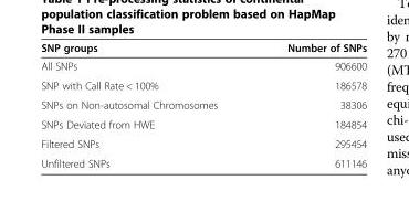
<table><thead><tr><td>SNP groups</td><td>Number of SNPs</td></tr></thead><tbody><tr><td>All SNPs</td><td>906600</td></tr><tr><td>SNP with Call Rate &lt; 100%</td><td>186578</td></tr><tr><td>SNPs on Non-autosomal Chromosomes</td><td>38306</td></tr><tr><td>SNPs Deviated from HWE</td><td>184854</td></tr><tr><td>Filtered SNPs</td><td>295454</td></tr><tr><td>Unfiltered SNPs</td><td>611146</td></tr></tbody></table>